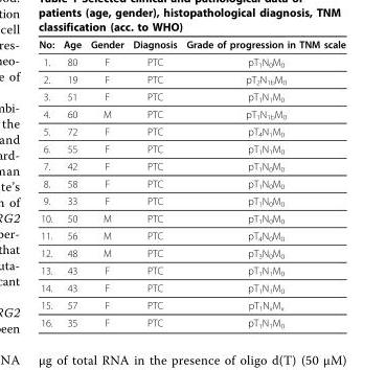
<table><thead><tr><td>No:</td><td>Age</td><td>Gender</td><td>Diagnosis</td><td>Grade of progression in TNM scale</td></tr></thead><tbody><tr><td>1.</td><td>80</td><td>F</td><td>PTC</td><td>pT<sub>1</sub>N<sub>0</sub>M<sub>0</sub></td></tr><tr><td>2.</td><td>19</td><td>F</td><td>PTC</td><td>pT<sub>2</sub>N<sub>1b</sub>M<sub>0</sub></td></tr><tr><td>3.</td><td>51</td><td>F</td><td>PTC</td><td>pT<sub>1</sub>N<sub>1</sub>M<sub>0</sub></td></tr><tr><td>4.</td><td>60</td><td>M</td><td>PTC</td><td>pT<sub>1</sub>N<sub>1b</sub>M<sub>0</sub></td></tr><tr><td>5.</td><td>72</td><td>F</td><td>PTC</td><td>pT<sub>4</sub>N<sub>1</sub>M<sub>0</sub></td></tr><tr><td>6.</td><td>55</td><td>F</td><td>PTC</td><td>pT<sub>1</sub>N<sub>1</sub>M<sub>0</sub></td></tr><tr><td>7.</td><td>42</td><td>F</td><td>PTC</td><td>pT<sub>1</sub>N<sub>0</sub>M<sub>0</sub></td></tr><tr><td>8.</td><td>58</td><td>F</td><td>PTC</td><td>pT<sub>1</sub>N<sub>0</sub>M<sub>0</sub></td></tr><tr><td>9.</td><td>33</td><td>F</td><td>PTC</td><td>pT<sub>1</sub>N<sub>0</sub>M<sub>0</sub></td></tr><tr><td>10.</td><td>50</td><td>M</td><td>PTC</td><td>pT<sub>1</sub>N<sub>0</sub>M<sub>0</sub></td></tr><tr><td>11.</td><td>56</td><td>M</td><td>PTC</td><td>pT<sub>4</sub>N<sub>0</sub>M<sub>0</sub></td></tr><tr><td>12.</td><td>48</td><td>M</td><td>PTC</td><td>pT<sub>3</sub>N<sub>0</sub>M<sub>0</sub></td></tr><tr><td>13.</td><td>43</td><td>F</td><td>PTC</td><td>pT<sub>1</sub>N<sub>1</sub>M<sub>0</sub></td></tr><tr><td>14.</td><td>43</td><td>F</td><td>PTC</td><td>pT<sub>1</sub>N<sub>1</sub>M<sub>0</sub></td></tr><tr><td>15.</td><td>57</td><td>F</td><td>PTC</td><td>pT<sub>1</sub>N<sub>x</sub>M<sub>x</sub></td></tr><tr><td>16.</td><td>35</td><td>F</td><td>PTC</td><td>pT<sub>1</sub>N<sub>1</sub>M<sub>0</sub></td></tr></tbody></table>